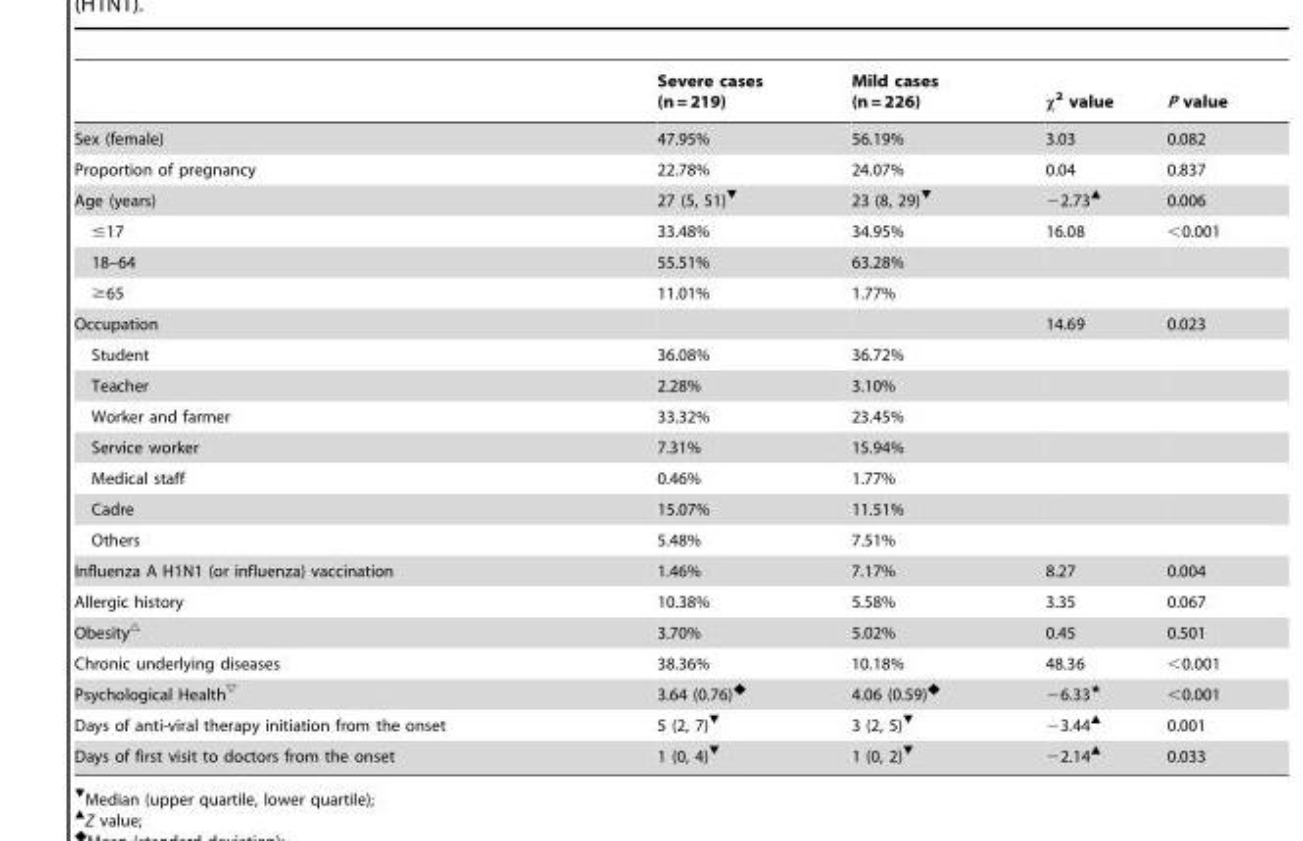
<table><thead><tr><td></td><td>Severe cases (n = 219)</td><td>Mild cases (n = 226)</td><td>κ<sup>2</sup> value</td><td>P value</td></tr></thead><tbody><tr><td>Sex (female)</td><td>47.95%</td><td>56.19%</td><td>3.03</td><td>0.082</td></tr><tr><td>Proportion of pregnancy</td><td>22.78%</td><td>24.07%</td><td>0.04</td><td>0.837</td></tr><tr><td>Age (years)</td><td>27 (5, 51)▾</td><td>23 (8, 29)▾</td><td>−2.73▴</td><td>0.006</td></tr><tr><td>≤17</td><td>33.48%</td><td>34.95%</td><td>16.08</td><td>&lt;0.001</td></tr><tr><td>18–64</td><td>55.51%</td><td>63.28%</td><td></td><td></td></tr><tr><td>≥65</td><td>11.01%</td><td>1.77%</td><td></td><td></td></tr><tr><td>Occupation</td><td></td><td></td><td>14.69</td><td>0.023</td></tr><tr><td>Student</td><td>36.08%</td><td>36.72%</td><td></td><td></td></tr><tr><td>Teacher</td><td>2.28%</td><td>3.10%</td><td></td><td></td></tr><tr><td>Worker and farmer</td><td>33.32%</td><td>23.45%</td><td></td><td></td></tr><tr><td>Service worker</td><td>7.31%</td><td>15.94%</td><td></td><td></td></tr><tr><td>Medical staff</td><td>0.46%</td><td>1.77%</td><td></td><td></td></tr><tr><td>Cadre</td><td>15.07%</td><td>11.51%</td><td></td><td></td></tr><tr><td>Others</td><td>5.48%</td><td>7.51%</td><td></td><td></td></tr><tr><td>Influenza A H1N1 (or influenza) vaccination</td><td>1.46%</td><td>7.17%</td><td>8.27</td><td>0.004</td></tr><tr><td>Allergic history</td><td>10.38%</td><td>5.58%</td><td>3.35</td><td>0.067</td></tr><tr><td>Obesity△</td><td>3.70%</td><td>5.02%</td><td>0.45</td><td>0.501</td></tr><tr><td>Chronic underlying diseases</td><td>38.36%</td><td>10.18%</td><td>48.36</td><td>&lt;0.001</td></tr><tr><td>Psychological Health▽</td><td>3.64 (0.76)⧫</td><td>4.06 (0.59)⧫</td><td>−6.33★</td><td>&lt;0.001</td></tr><tr><td>Days of anti-viral therapy initiation from the onset</td><td>5 (2, 7)▾</td><td>3 (2, 5)▾</td><td>−3.44▴</td><td>0.001</td></tr><tr><td>Days of first visit to doctors from the onset</td><td>1 (0, 4)▾</td><td>1 (0, 2)▾</td><td>−2.14▴</td><td>0.033</td></tr></tbody></table>